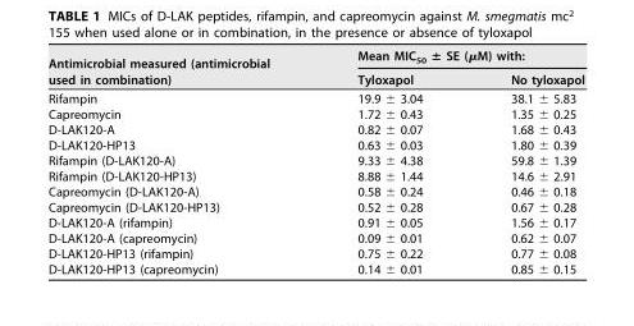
<table><thead><tr><td rowspan="2">Antimicrobial measured (antimicrobial used in combination)</td><td colspan="2">Mean MIC<sub>50</sub> ± SE (µM) with:</td></tr><tr><td>Tyloxapol</td><td>No tyloxapol</td></tr></thead><tbody><tr><td>Rifampin</td><td>19.9 ± 3.04</td><td>38.1 ± 5.83</td></tr><tr><td>Capreomycin</td><td>1.72 ± 0.43</td><td>1.35 ± 0.25</td></tr><tr><td>D-LAK120-A</td><td>0.82 ± 0.07</td><td>1.68 ± 0.43</td></tr><tr><td>D-LAK120-HP13</td><td>0.63 ± 0.03</td><td>1.80 ± 0.39</td></tr><tr><td>Rifampin (D-LAK120-A)</td><td>9.33 ± 4.38</td><td>59.8 ± 1.39</td></tr><tr><td>Rifampin (D-LAK120-HP13)</td><td>8.88 ± 1.44</td><td>14.6 ± 2.91</td></tr><tr><td>Capreomycin (D-LAK120-A)</td><td>0.58 ± 0.24</td><td>0.46 ± 0.18</td></tr><tr><td>Capreomycin (D-LAK120-HP13)</td><td>0.52 ± 0.28</td><td>0.67 ± 0.28</td></tr><tr><td>D-LAK120-A (rifampin)</td><td>0.91 ± 0.05</td><td>1.56 ± 0.17</td></tr><tr><td>D-LAK120-A (capreomycin)</td><td>0.09 ± 0.01</td><td>0.62 ± 0.07</td></tr><tr><td>D-LAK120-HP13 (rifampin)</td><td>0.75 ± 0.22</td><td>0.77 ± 0.08</td></tr><tr><td>D-LAK120-HP13 (capreomycin)</td><td>0.14 ± 0.01</td><td>0.85 ± 0.15</td></tr></tbody></table>